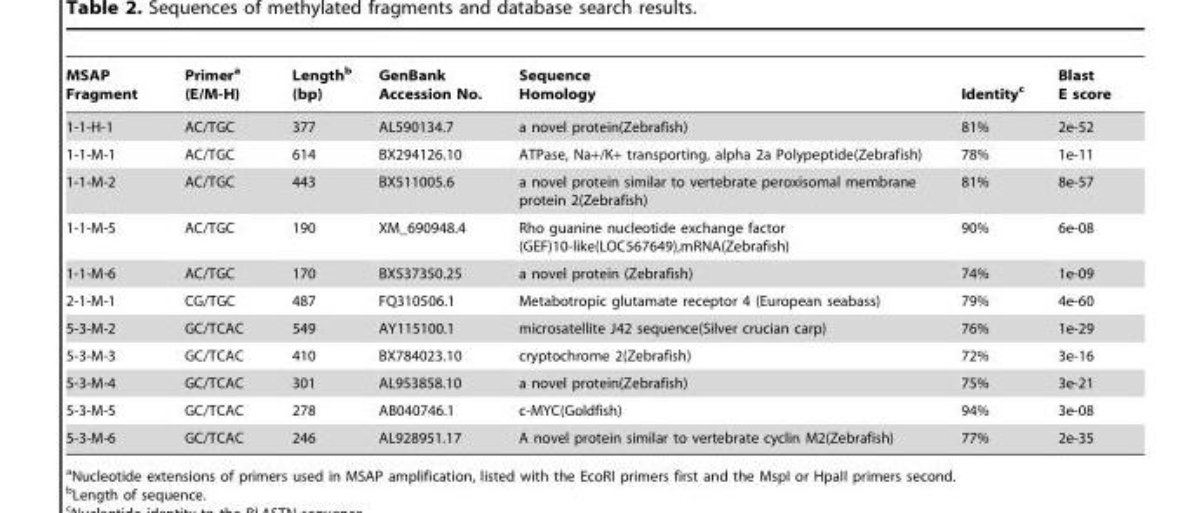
<table><thead><tr><td>MSAP Fragment</td><td>Primer<sup>a</sup> (E/M-H)</td><td>Length<sup>b</sup> (bp)</td><td>GenBank Accession No.</td><td>Sequence Homology</td><td>Identity<sup>c</sup></td><td>Blast E score</td></tr></thead><tbody><tr><td>1-1-H-1</td><td>AC/TGC</td><td>377</td><td>AL590134.7</td><td>a novel protein(Zebrafish)</td><td>81%</td><td>2e-52</td></tr><tr><td>1-1-M-1</td><td>AC/TGC</td><td>614</td><td>BX294126.10</td><td>ATPase, Na+/K+ transporting, alpha 2a Polypeptide(Zebrafish)</td><td>78%</td><td>1e-11</td></tr><tr><td>1-1-M-2</td><td>AC/TGC</td><td>443</td><td>BX511005.6</td><td>a novel protein similar to vertebrate peroxisomal membrane protein 2(Zebrafish)</td><td>81%</td><td>8e-57</td></tr><tr><td>1-1-M-5</td><td>AC/TGC</td><td>190</td><td>XM_690948.4</td><td>Rho guanine nucleotide exchange factor (GEF)10-like(LOC567649),mRNA(Zebrafish)</td><td>90%</td><td>6e-08</td></tr><tr><td>1-1-M-6</td><td>AC/TGC</td><td>170</td><td>BX537350.25</td><td>a novel protein (Zebrafish)</td><td>74%</td><td>1e-09</td></tr><tr><td>2-1-M-1</td><td>CG/TGC</td><td>487</td><td>FQ310506.1</td><td>Metabotropic glutamate receptor 4 (European seabass)</td><td>79%</td><td>4e-60</td></tr><tr><td>5-3-M-2</td><td>GC/TCAC</td><td>549</td><td>AY115100.1</td><td>microsatellite J42 sequence(Silver crucian carp)</td><td>76%</td><td>1e-29</td></tr><tr><td>5-3-M-3</td><td>GC/TCAC</td><td>410</td><td>BX784023.10</td><td>cryptochrome 2(Zebrafish)</td><td>72%</td><td>3e-16</td></tr><tr><td>5-3-M-4</td><td>GC/TCAC</td><td>301</td><td>AL953858.10</td><td>a novel protein(Zebrafish)</td><td>75%</td><td>3e-21</td></tr><tr><td>5-3-M-5</td><td>GC/TCAC</td><td>278</td><td>AB040746.1</td><td>c-MYC(Goldfish)</td><td>94%</td><td>3e-08</td></tr><tr><td>5-3-M-6</td><td>GC/TCAC</td><td>246</td><td>AL928951.17</td><td>A novel protein similar to vertebrate cyclin M2(Zebrafish)</td><td>77%</td><td>2e-35</td></tr></tbody></table>